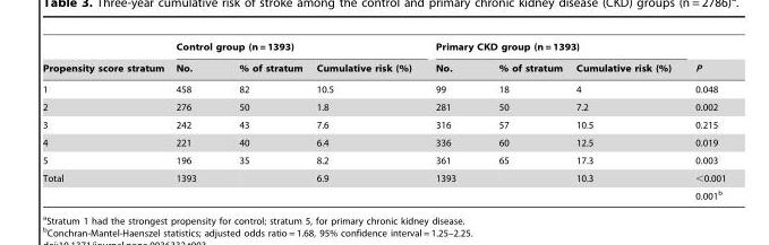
<table><thead><tr><td rowspan="2">Propensity score stratum</td><td colspan="3">Control group (n = 1393)</td><td colspan="3">Primary CKD group (n = 1393)</td><td rowspan="2">P</td></tr><tr><td>No.</td><td>% of stratum</td><td>Cumulative risk (%)</td><td>No.</td><td>% of stratum</td><td>Cumulative risk (%)</td></tr></thead><tbody><tr><td>1</td><td>458</td><td>82</td><td>10.5</td><td>99</td><td>18</td><td>4</td><td>0.048</td></tr><tr><td>2</td><td>276</td><td>50</td><td>1.8</td><td>281</td><td>50</td><td>7.2</td><td>0.002</td></tr><tr><td>3</td><td>242</td><td>43</td><td>7.6</td><td>316</td><td>57</td><td>10.5</td><td>0.215</td></tr><tr><td>4</td><td>221</td><td>40</td><td>6.4</td><td>336</td><td>60</td><td>12.5</td><td>0.019</td></tr><tr><td>5</td><td>196</td><td>35</td><td>8.2</td><td>361</td><td>65</td><td>17.3</td><td>0.003</td></tr><tr><td rowspan="2">Total</td><td>1393</td><td></td><td>6.9</td><td>1393</td><td></td><td>10.3</td><td>&lt;0.001</td></tr><tr><td></td><td></td><td></td><td></td><td></td><td></td><td>0.001<sup>b</sup></td></tr></tbody></table>